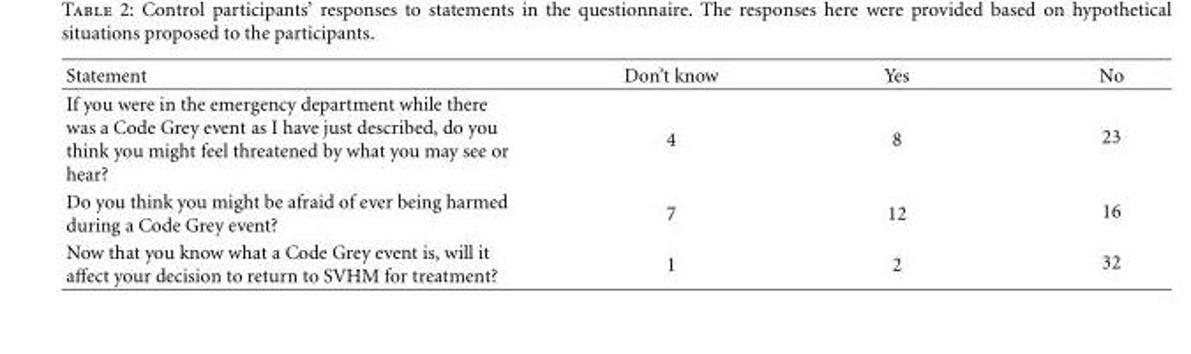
<table><thead><tr><td>Statement</td><td>Don’t know</td><td>Yes</td><td>No</td></tr></thead><tbody><tr><td>If you were in the emergency department while there was a Code Grey event as I have just described, do you think you might feel threatened by what you may see or hear?</td><td>4</td><td>8</td><td>23</td></tr><tr><td>Do you think you might be afraid of ever being harmed during a Code Grey event?</td><td>7</td><td>12</td><td>16</td></tr><tr><td>Now that you know what a Code Grey event is, will it affect your decision to return to SVHM for treatment?</td><td>1</td><td>2</td><td>32</td></tr></tbody></table>